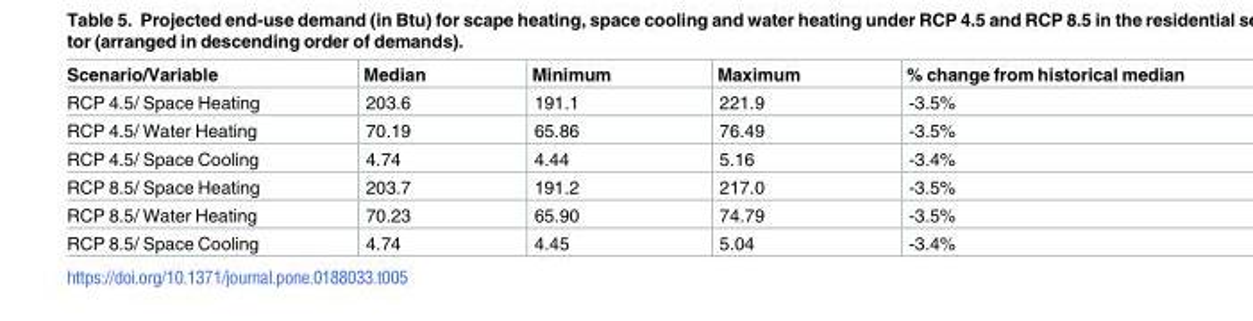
<table><thead><tr><td>Scenario/Variable</td><td>Median</td><td>Minimum</td><td>Maximum</td><td>% change from historical median</td></tr></thead><tbody><tr><td>RCP 4.5/ Space Heating</td><td>203.6</td><td>191.1</td><td>221.9</td><td>-3.5%</td></tr><tr><td>RCP 4.5/ Water Heating</td><td>70.19</td><td>65.86</td><td>76.49</td><td>-3.5%</td></tr><tr><td>RCP 4.5/ Space Cooling</td><td>4.74</td><td>4.44</td><td>5.16</td><td>-3.4%</td></tr><tr><td>RCP 8.5/ Space Heating</td><td>203.7</td><td>191.2</td><td>217.0</td><td>-3.5%</td></tr><tr><td>RCP 8.5/ Water Heating</td><td>70.23</td><td>65.90</td><td>74.79</td><td>-3.5%</td></tr><tr><td>RCP 8.5/ Space Cooling</td><td>4.74</td><td>4.45</td><td>5.04</td><td>-3.4%</td></tr></tbody></table>